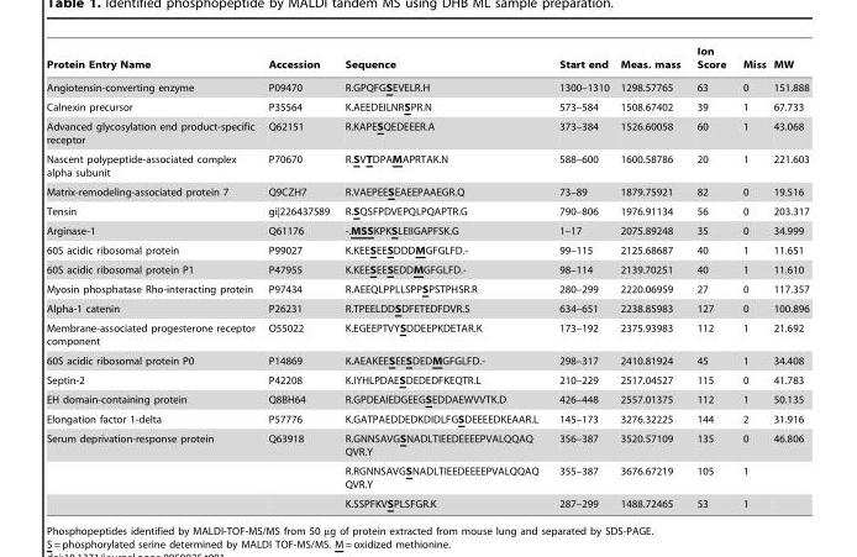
<table><thead><tr><td>Protein Entry Name</td><td>Accession</td><td>Sequence</td><td>Start end</td><td>Meas. mass</td><td>Ion Score</td><td>Miss</td><td>MW</td></tr></thead><tbody><tr><td>Angiotensin-converting enzyme</td><td>P09470</td><td>R.GPQFGSEVELR.H</td><td>1300–1310</td><td>1298.57765</td><td>63</td><td>0</td><td>151.888</td></tr><tr><td>Calnexin precursor</td><td>P35564</td><td>K.AEEDEILNRSPR.N</td><td>573–584</td><td>1508.67402</td><td>39</td><td>1</td><td>67.733</td></tr><tr><td>Advanced glycosylation end product-specific receptor</td><td>Q62151</td><td>R.KAPESQEDEEER.A</td><td>373–384</td><td>1526.60058</td><td>60</td><td>1</td><td>43.068</td></tr><tr><td>Nascent polypeptide-associated complex alpha subunit</td><td>P70670</td><td>R.SVTDPAMAPRTAK.N</td><td>588–600</td><td>1600.58786</td><td>20</td><td>1</td><td>221.603</td></tr><tr><td>Matrix-remodeling-associated protein 7</td><td>Q9CZH7</td><td>R.VAEPEESEAEEPAAEGR.Q</td><td>73–89</td><td>1879.75921</td><td>82</td><td>0</td><td>19.516</td></tr><tr><td>Tensin</td><td>gi|226437589</td><td>R.SQSFPDVEPQLPQAPTR.G</td><td>790–806</td><td>1976.91134</td><td>56</td><td>0</td><td>203.317</td></tr><tr><td>Arginase-1</td><td>Q61176</td><td>-.MSSKPKSLEIIGAPFSK.G</td><td>1–17</td><td>2075.89248</td><td>35</td><td>0</td><td>34.999</td></tr><tr><td>60S acidic ribosomal protein</td><td>P99027</td><td>K.KEESEESDDDMGFGLFD.-</td><td>99–115</td><td>2125.68687</td><td>40</td><td>1</td><td>11.651</td></tr><tr><td>60S acidic ribosomal protein P1</td><td>P47955</td><td>K.KEESEESEDDMGFGLFD.-</td><td>98–114</td><td>2139.70251</td><td>40</td><td>1</td><td>11.610</td></tr><tr><td>Myosin phosphatase Rho-interacting protein</td><td>P97434</td><td>R.AEEQLPPLLSPPSPSTPHSR.R</td><td>280–299</td><td>2220.06959</td><td>27</td><td>0</td><td>117.357</td></tr><tr><td>Alpha-1 catenin</td><td>P26231</td><td>R.TPEELDDSDFETEDFDVR.S</td><td>634–651</td><td>2238.85983</td><td>127</td><td>0</td><td>100.896</td></tr><tr><td>Membrane-associated progesterone receptor component</td><td>O55022</td><td>K.EGEEPTVYSDDEEPKDETAR.K</td><td>173–192</td><td>2375.93983</td><td>112</td><td>1</td><td>21.692</td></tr><tr><td>60S acidic ribosomal protein P0</td><td>P14869</td><td>K.AEAKEESEESDEDMGFGLFD.-</td><td>298–317</td><td>2410.81924</td><td>45</td><td>1</td><td>34.408</td></tr><tr><td>Septin-2</td><td>P42208</td><td>K.IYHLPDAESDEDEDFKEQTR.L</td><td>210–229</td><td>2517.04527</td><td>115</td><td>0</td><td>41.783</td></tr><tr><td>EH domain-containing protein</td><td>Q8BH64</td><td>R.GPDEAIEDGEEGSEDDAEWVVTK.D</td><td>426–448</td><td>2557.01375</td><td>112</td><td>1</td><td>50.135</td></tr><tr><td>Elongation factor 1-delta</td><td>P57776</td><td>K.GATPAEDDEDKDIDLFGSDEEEEDKEAAR.L</td><td>145–173</td><td>3276.32225</td><td>144</td><td>2</td><td>31.916</td></tr><tr><td rowspan="3">Serum deprivation-response protein</td><td>Q63918</td><td>R.GNNSAVGSNADLTIEEDEEEEPVALQQAQ QVR.Y</td><td>356–387</td><td>3520.57109</td><td>135</td><td>0</td><td>46.806</td></tr><tr><td></td><td>R.RGNNSAVGSNADLTIEEDEEEEPVALQQAQ QVR.Y</td><td>355–387</td><td>3676.67219</td><td>105</td><td>1</td><td></td></tr><tr><td></td><td>K.SSPFKVSPLSFGR.K</td><td>287–299</td><td>1488.72465</td><td>53</td><td>1</td><td></td></tr></tbody></table>